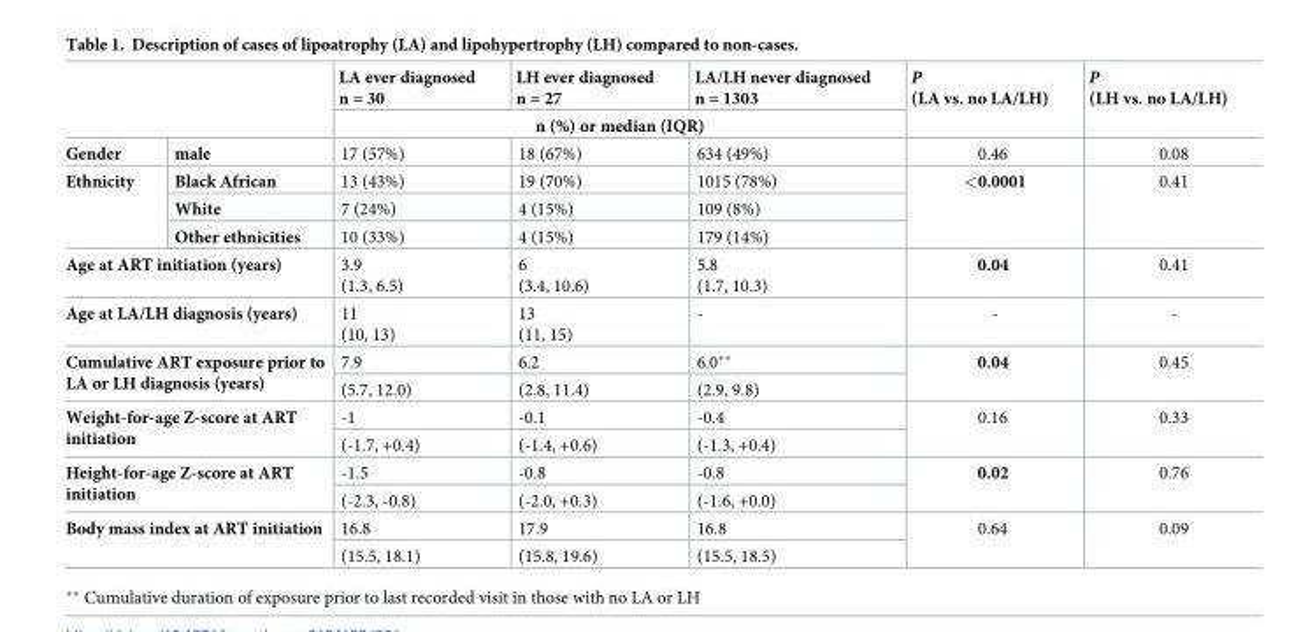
<table><thead><tr><td rowspan="2"></td><td rowspan="2"></td><td>LA ever diagnosed n = 30</td><td>LH ever diagnosed n = 27</td><td>LA/LH never diagnosed n = 1303</td><td rowspan="2">P (LA vs. no LA/LH)</td><td rowspan="2">P (LH vs. no LA/LH)</td></tr><tr><td colspan="3">n (%) or median (IQR)</td></tr></thead><tbody><tr><td>Gender</td><td>male</td><td>17 (57%)</td><td>18 (67%)</td><td>634 (49%)</td><td>0.46</td><td>0.08</td></tr><tr><td rowspan="3">Ethnicity</td><td>Black African</td><td>13 (43%)</td><td>19 (70%)</td><td>1015 (78%)</td><td rowspan="3">&lt;0.0001</td><td rowspan="3">0.41</td></tr><tr><td>White</td><td>7 (24%)</td><td>4 (15%)</td><td>109 (8%)</td></tr><tr><td>Other ethnicities</td><td>10 (33%)</td><td>4 (15%)</td><td>179 (14%)</td></tr><tr><td colspan="2">Age at ART initiation (years)</td><td>3.9 (1.3, 6.5)</td><td>6 (3.4, 10.6)</td><td>5.8 (1.7, 10.3)</td><td>0.04</td><td>0.41</td></tr><tr><td colspan="2">Age at LA/LH diagnosis (years)</td><td>11 (10, 13)</td><td>13 (11, 15)</td><td>-</td><td>-</td><td>-</td></tr><tr><td rowspan="2" colspan="2">Cumulative ART exposure prior to LA or LH diagnosis (years)</td><td>7.9</td><td>6.2</td><td>6.0**</td><td rowspan="2">0.04</td><td rowspan="2">0.45</td></tr><tr><td>(5.7, 12.0)</td><td>(2.8, 11.4)</td><td>(2.9, 9.8)</td></tr><tr><td rowspan="2" colspan="2">Weight-for-age Z-score at ART initiation</td><td>-1</td><td>-0.1</td><td>-0.4</td><td rowspan="2">0.16</td><td rowspan="2">0.33</td></tr><tr><td>(-1.7, +0.4)</td><td>(-1.4, +0.6)</td><td>(-1.3, +0.4)</td></tr><tr><td rowspan="2" colspan="2">Height-for-age Z-score at ART initiation</td><td>-1.5</td><td>-0.8</td><td>-0.8</td><td rowspan="2">0.02</td><td rowspan="2">0.76</td></tr><tr><td>(-2.3, -0.8)</td><td>(-2.0, +0.3)</td><td>(-1.6, +0.0)</td></tr><tr><td rowspan="2" colspan="2">Body mass index at ART initiation</td><td>16.8</td><td>17.9</td><td>16.8</td><td rowspan="2">0.64</td><td rowspan="2">0.09</td></tr><tr><td>(15.5, 18.1)</td><td>(15.8, 19.6)</td><td>(15.5, 18.5)</td></tr></tbody></table>